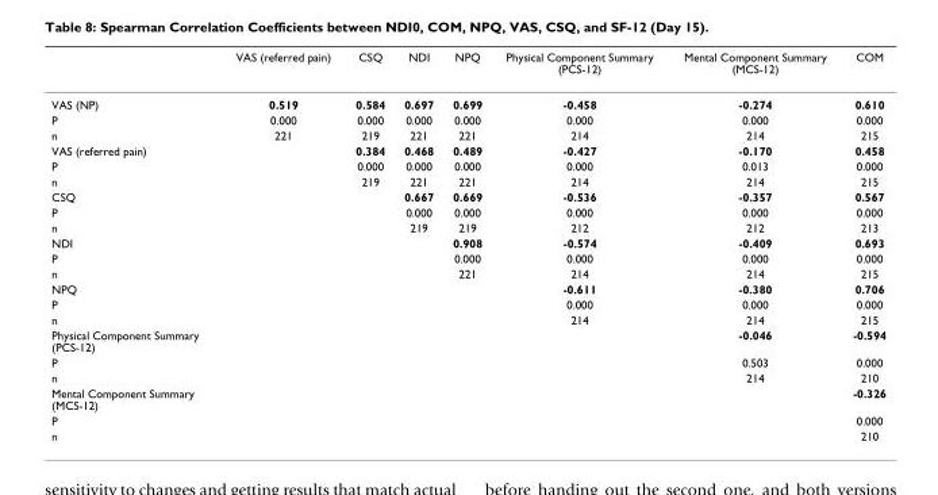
<table><thead><tr><td></td><td>VAS (referred pain)</td><td>CSQ</td><td>NDI</td><td>NPQ</td><td>Physical Component Summary (PCS-12)</td><td>Mental Component Summary (MCS-12)</td><td>COM</td></tr></thead><tbody><tr><td>VAS (NP)</td><td>0.519</td><td>0.584</td><td>0.697</td><td>0.699</td><td>-0.458</td><td>-0.274</td><td>0.610</td></tr><tr><td>P</td><td>0.000</td><td>0.000</td><td>0.000</td><td>0.000</td><td>0.000</td><td>0.000</td><td>0.000</td></tr><tr><td>n</td><td>221</td><td>219</td><td>221</td><td>221</td><td>214</td><td>214</td><td>215</td></tr><tr><td>VAS (referred pain)</td><td></td><td>0.384</td><td>0.468</td><td>0.489</td><td>-0.427</td><td>-0.170</td><td>0.458</td></tr><tr><td>P</td><td></td><td>0.000</td><td>0.000</td><td>0.000</td><td>0.000</td><td>0.013</td><td>0.000</td></tr><tr><td>n</td><td></td><td>219</td><td>221</td><td>221</td><td>214</td><td>214</td><td>215</td></tr><tr><td>CSQ</td><td></td><td></td><td>0.667</td><td>0.669</td><td>-0.536</td><td>-0.357</td><td>0.567</td></tr><tr><td>P</td><td></td><td></td><td>0.000</td><td>0.000</td><td>0.000</td><td>0.000</td><td>0.000</td></tr><tr><td>n</td><td></td><td></td><td>219</td><td>219</td><td>212</td><td>212</td><td>213</td></tr><tr><td>NDI</td><td></td><td></td><td></td><td>0.908</td><td>-0.574</td><td>-0.409</td><td>0.693</td></tr><tr><td>P</td><td></td><td></td><td></td><td>0.000</td><td>0.000</td><td>0.000</td><td>0.000</td></tr><tr><td>n</td><td></td><td></td><td></td><td>221</td><td>214</td><td>214</td><td>215</td></tr><tr><td>NPQ</td><td></td><td></td><td></td><td></td><td>-0.611</td><td>-0.380</td><td>0.706</td></tr><tr><td>P</td><td></td><td></td><td></td><td></td><td>0.000</td><td>0.000</td><td>0.000</td></tr><tr><td>n</td><td></td><td></td><td></td><td></td><td>214</td><td>214</td><td>215</td></tr><tr><td>Physical Component Summary (PCS-12)</td><td></td><td></td><td></td><td></td><td></td><td>-0.046</td><td>-0.594</td></tr><tr><td>P</td><td></td><td></td><td></td><td></td><td></td><td>0.503</td><td>0.000</td></tr><tr><td>n</td><td></td><td></td><td></td><td></td><td></td><td>214</td><td>210</td></tr><tr><td>Mental Component Summary (MCS-12)</td><td></td><td></td><td></td><td></td><td></td><td></td><td>-0.326</td></tr><tr><td>P</td><td></td><td></td><td></td><td></td><td></td><td></td><td>0.000</td></tr><tr><td>n</td><td></td><td></td><td></td><td></td><td></td><td></td><td>210</td></tr></tbody></table>